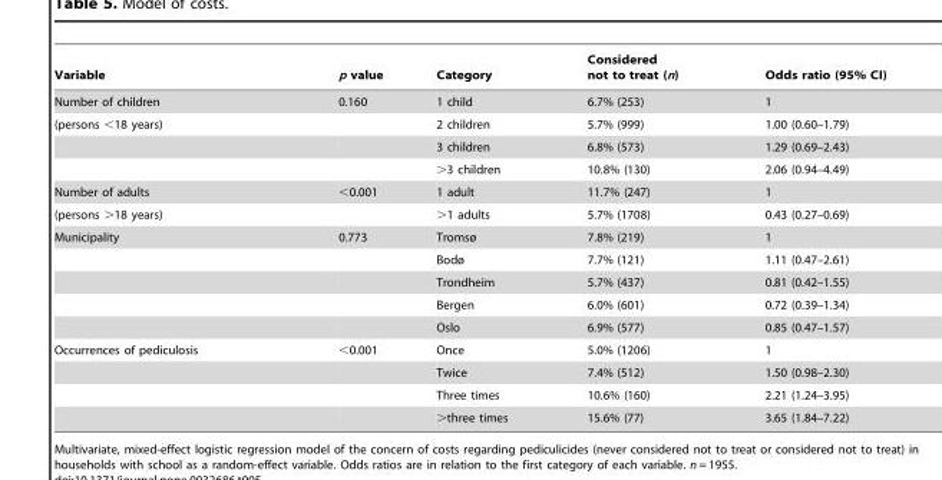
<table><thead><tr><td>Variable</td><td>p value</td><td>Category</td><td>Considered not to treat (n)</td><td>Odds ratio (95% CI)</td></tr></thead><tbody><tr><td>Number of children</td><td>0.160</td><td>1 child</td><td>6.7% (253)</td><td>1</td></tr><tr><td rowspan="3">(persons &lt;18 years)</td><td></td><td>2 children</td><td>5.7% (999)</td><td>1.00 (0.60–1.79)</td></tr><tr><td></td><td>3 children</td><td>6.8% (573)</td><td>1.29 (0.69–2.43)</td></tr><tr><td></td><td>&gt;3 children</td><td>10.8% (130)</td><td>2.06 (0.94–4.49)</td></tr><tr><td>Number of adults</td><td>&lt;0.001</td><td>1 adult</td><td>11.7% (247)</td><td>1</td></tr><tr><td>(persons &gt;18 years)</td><td></td><td>&gt;1 adults</td><td>5.7% (1708)</td><td>0.43 (0.27–0.69)</td></tr><tr><td rowspan="5">Municipality</td><td>0.773</td><td>Tromsø</td><td>7.8% (219)</td><td>1</td></tr><tr><td></td><td>Bodø</td><td>7.7% (121)</td><td>1.11 (0.47–2.61)</td></tr><tr><td></td><td>Trondheim</td><td>5.7% (437)</td><td>0.81 (0.42–1.55)</td></tr><tr><td></td><td>Bergen</td><td>6.0% (601)</td><td>0.72 (0.39–1.34)</td></tr><tr><td></td><td>Oslo</td><td>6.9% (577)</td><td>0.85 (0.47–1.57)</td></tr><tr><td rowspan="4">Occurrences of pediculosis</td><td>&lt;0.001</td><td>Once</td><td>5.0% (1206)</td><td>1</td></tr><tr><td></td><td>Twice</td><td>7.4% (512)</td><td>1.50 (0.98–2.30)</td></tr><tr><td></td><td>Three times</td><td>10.6% (160)</td><td>2.21 (1.24–3.95)</td></tr><tr><td></td><td>&gt;three times</td><td>15.6% (77)</td><td>3.65 (1.84–7.22)</td></tr></tbody></table>